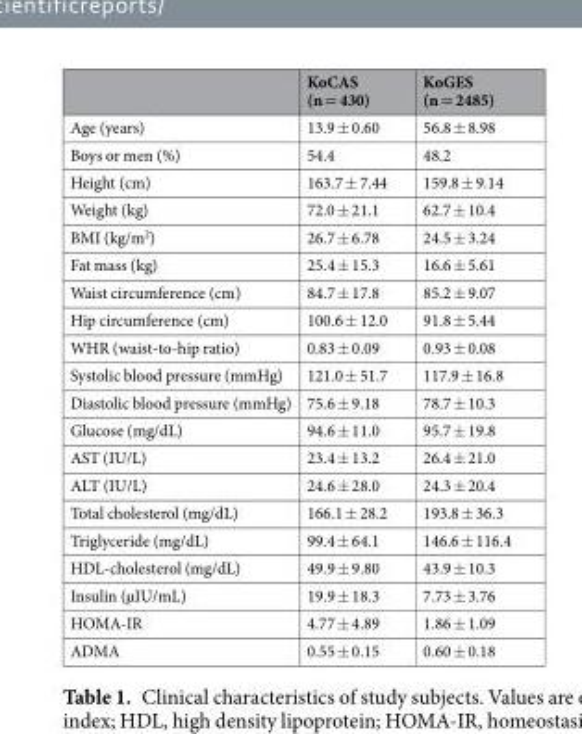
<table><thead><tr><td></td><td>KoCAS (n = 430)</td><td>KoGES (n = 2485)</td></tr></thead><tbody><tr><td>Age (years)</td><td>13.9 ± 0.60</td><td>56.8 ± 8.98</td></tr><tr><td>Boys or men (%)</td><td>54.4</td><td>48.2</td></tr><tr><td>Height (cm)</td><td>163.7 ± 7.44</td><td>159.8 ± 9.14</td></tr><tr><td>Weight (kg)</td><td>72.0 ± 21.1</td><td>62.7 ± 10.4</td></tr><tr><td>BMI (kg/m<sup>2</sup>)</td><td>26.7 ± 6.78</td><td>24.5 ± 3.24</td></tr><tr><td>Fat mass (kg)</td><td>25.4 ± 15.3</td><td>16.6 ± 5.61</td></tr><tr><td>Waist circumference (cm)</td><td>84.7 ± 17.8</td><td>85.2 ± 9.07</td></tr><tr><td>Hip circumference (cm)</td><td>100.6 ± 12.0</td><td>91.8 ± 5.44</td></tr><tr><td>WHR (waist-to-hip ratio)</td><td>0.83 ± 0.09</td><td>0.93 ± 0.08</td></tr><tr><td>Systolic blood pressure (mmHg)</td><td>121.0 ± 51.7</td><td>117.9 ± 16.8</td></tr><tr><td>Diastolic blood pressure (mmHg)</td><td>75.6 ± 9.18</td><td>78.7 ± 10.3</td></tr><tr><td>Glucose (mg/dL)</td><td>94.6 ± 11.0</td><td>95.7 ± 19.8</td></tr><tr><td>AST (IU/L)</td><td>23.4 ± 13.2</td><td>26.4 ± 21.0</td></tr><tr><td>ALT (IU/L)</td><td>24.6 ± 28.0</td><td>24.3 ± 20.4</td></tr><tr><td>Total cholesterol (mg/dL)</td><td>166.1 ± 28.2</td><td>193.8 ± 36.3</td></tr><tr><td>Triglyceride (mg/dL)</td><td>99.4 ± 64.1</td><td>146.6 ± 116.4</td></tr><tr><td>HDL-cholesterol (mg/dL)</td><td>49.9 ± 9.80</td><td>43.9 ± 10.3</td></tr><tr><td>Insulin (µIU/mL)</td><td>19.9 ± 18.3</td><td>7.73 ± 3.76</td></tr><tr><td>HOMA-IR</td><td>4.77 ± 4.89</td><td>1.86 ± 1.09</td></tr><tr><td>ADMA</td><td>0.55 ± 0.15</td><td>0.60 ± 0.18</td></tr></tbody></table>